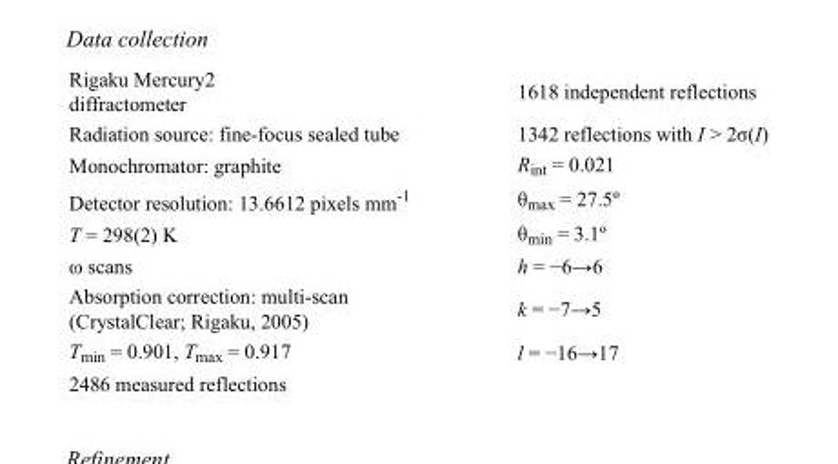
<table><tbody><tr><td>Rigaku Mercury2 diffractometer</td><td>1618 independent reflections</td></tr><tr><td>Radiation source: fine-focus sealed tube</td><td>1342 reflections with I &gt; 2σ(I)</td></tr><tr><td>Monochromator: graphite</td><td>R<sub>int</sub> = 0.021</td></tr><tr><td>Detector resolution: 13.6612 pixels mm<sup>-1</sup></td><td>θ<sub>max</sub> = 27.5º</td></tr><tr><td>T = 298(2) K</td><td>θ<sub>min</sub> = 3.1º</td></tr><tr><td>ω scans</td><td>h = −6→6</td></tr><tr><td>Absorption correction: multi-scan (CrystalClear; Rigaku, 2005)</td><td>k = −7→5</td></tr><tr><td>T<sub>min</sub> = 0.901, T<sub>max</sub> = 0.917</td><td>l = −16→17</td></tr><tr><td>2486 measured reflections</td><td></td></tr></tbody></table>